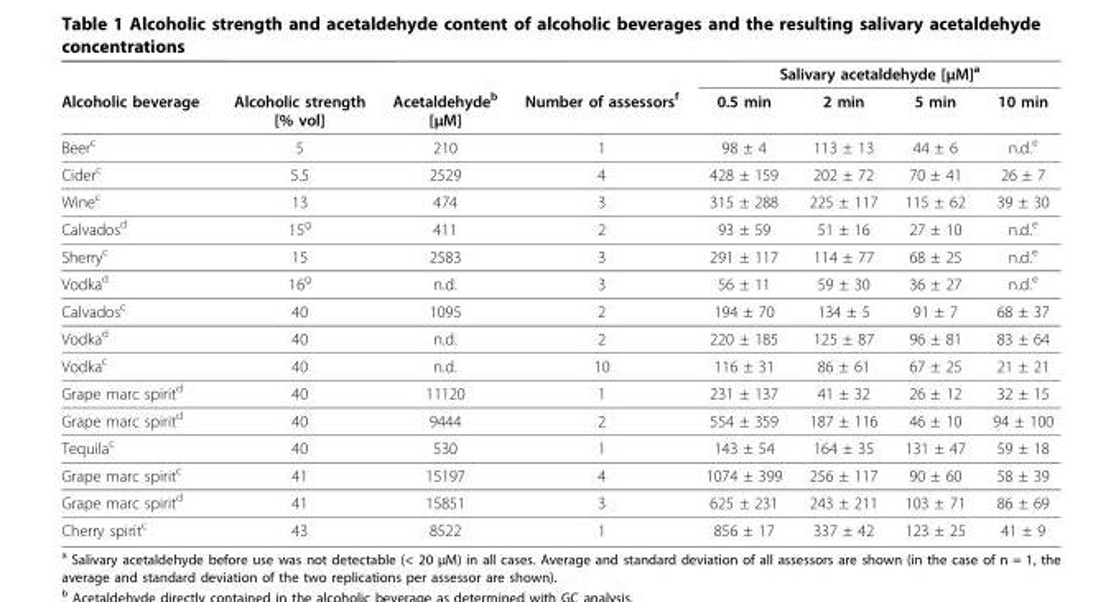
<table><thead><tr><td rowspan="2">Alcoholic beverage</td><td rowspan="2">Alcoholic strength [% vol]</td><td rowspan="2">Acetaldehyde<sup>b</sup> [μM]</td><td rowspan="2">Number of assessors<sup>f</sup></td><td colspan="4">Salivary acetaldehyde [μM]<sup>a</sup></td></tr><tr><td>0.5 min</td><td>2 min</td><td>5 min</td><td>10 min</td></tr></thead><tbody><tr><td>Beer<sup>c</sup></td><td>5</td><td>210</td><td>1</td><td>98 ± 4</td><td>113 ± 13</td><td>44 ± 6</td><td>n.d.<sup>e</sup></td></tr><tr><td>Cider<sup>c</sup></td><td>5.5</td><td>2529</td><td>4</td><td>428 ± 159</td><td>202 ± 72</td><td>70 ± 41</td><td>26 ± 7</td></tr><tr><td>Wine<sup>c</sup></td><td>13</td><td>474</td><td>3</td><td>315 ± 288</td><td>225 ± 117</td><td>115 ± 62</td><td>39 ± 30</td></tr><tr><td>Calvados<sup>d</sup></td><td>15<sup>g</sup></td><td>411</td><td>2</td><td>93 ± 59</td><td>51 ± 16</td><td>27 ± 10</td><td>n.d.<sup>e</sup></td></tr><tr><td>Sherry<sup>c</sup></td><td>15</td><td>2583</td><td>3</td><td>291 ± 117</td><td>114 ± 77</td><td>68 ± 25</td><td>n.d.<sup>e</sup></td></tr><tr><td>Vodka<sup>d</sup></td><td>16<sup>g</sup></td><td>n.d.</td><td>3</td><td>56 ± 11</td><td>59 ± 30</td><td>36 ± 27</td><td>n.d.<sup>e</sup></td></tr><tr><td>Calvados<sup>c</sup></td><td>40</td><td>1095</td><td>2</td><td>194 ± 70</td><td>134 ± 5</td><td>91 ± 7</td><td>68 ± 37</td></tr><tr><td>Vodka<sup>d</sup></td><td>40</td><td>n.d.</td><td>2</td><td>220 ± 185</td><td>125 ± 87</td><td>96 ± 81</td><td>83 ± 64</td></tr><tr><td>Vodka<sup>c</sup></td><td>40</td><td>n.d.</td><td>10</td><td>116 ± 31</td><td>86 ± 61</td><td>67 ± 25</td><td>21 ± 21</td></tr><tr><td>Grape marc spirit<sup>d</sup></td><td>40</td><td>11120</td><td>1</td><td>231 ± 137</td><td>41 ± 32</td><td>26 ± 12</td><td>32 ± 15</td></tr><tr><td>Grape marc spirit<sup>d</sup></td><td>40</td><td>9444</td><td>2</td><td>554 ± 359</td><td>187 ± 116</td><td>46 ± 10</td><td>94 ± 100</td></tr><tr><td>Tequila<sup>c</sup></td><td>40</td><td>530</td><td>1</td><td>143 ± 54</td><td>164 ± 35</td><td>131 ± 47</td><td>59 ± 18</td></tr><tr><td>Grape marc spirit<sup>c</sup></td><td>41</td><td>15197</td><td>4</td><td>1074 ± 399</td><td>256 ± 117</td><td>90 ± 60</td><td>58 ± 39</td></tr><tr><td>Grape marc spirit<sup>d</sup></td><td>41</td><td>15851</td><td>3</td><td>625 ± 231</td><td>243 ± 211</td><td>103 ± 71</td><td>86 ± 69</td></tr><tr><td>Cherry spirit<sup>c</sup></td><td>43</td><td>8522</td><td>1</td><td>856 ± 17</td><td>337 ± 42</td><td>123 ± 25</td><td>41 ± 9</td></tr></tbody></table>